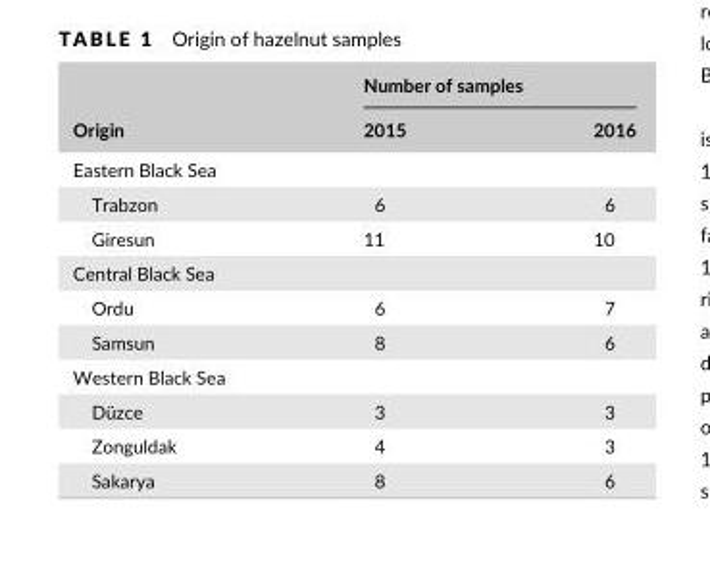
<table><thead><tr><td rowspan="2">Origin</td><td colspan="2">Number of samples</td></tr><tr><td>2015</td><td>2016</td></tr></thead><tbody><tr><td colspan="3">Eastern Black Sea</td></tr><tr><td>Trabzon</td><td>6</td><td>6</td></tr><tr><td>Giresun</td><td>11</td><td>10</td></tr><tr><td colspan="3">Central Black Sea</td></tr><tr><td>Ordu</td><td>6</td><td>7</td></tr><tr><td>Samsun</td><td>8</td><td>6</td></tr><tr><td colspan="3">Western Black Sea</td></tr><tr><td>Düzce</td><td>3</td><td>3</td></tr><tr><td>Zonguldak</td><td>4</td><td>3</td></tr><tr><td>Sakarya</td><td>8</td><td>6</td></tr></tbody></table>